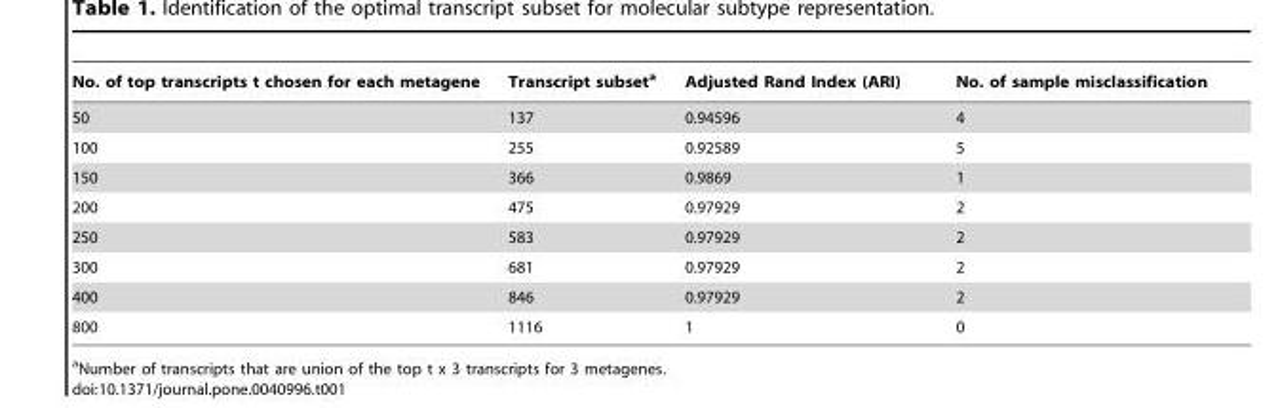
<table><thead><tr><td>No. of top transcripts t chosen for each metagene</td><td>Transcript subset<sup>a</sup></td><td>Adjusted Rand Index (ARI)</td><td>No. of sample misclassification</td></tr></thead><tbody><tr><td>50</td><td>137</td><td>0.94596</td><td>4</td></tr><tr><td>100</td><td>255</td><td>0.92589</td><td>5</td></tr><tr><td>150</td><td>366</td><td>0.9869</td><td>1</td></tr><tr><td>200</td><td>475</td><td>0.97929</td><td>2</td></tr><tr><td>250</td><td>583</td><td>0.97929</td><td>2</td></tr><tr><td>300</td><td>681</td><td>0.97929</td><td>2</td></tr><tr><td>400</td><td>846</td><td>0.97929</td><td>2</td></tr><tr><td>800</td><td>1116</td><td>1</td><td>0</td></tr></tbody></table>